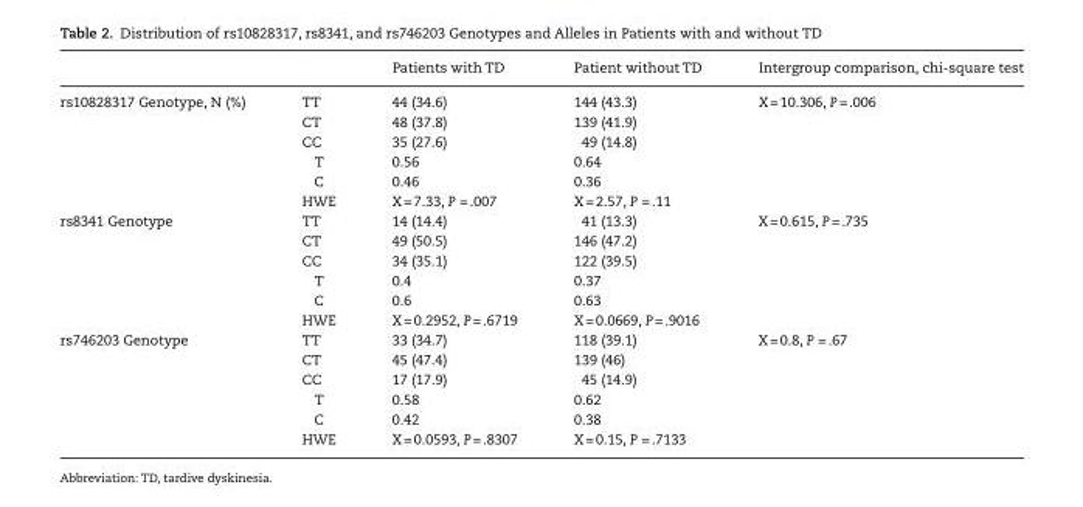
<table><thead><tr><td></td><td></td><td>Patients with TD</td><td>Patient without TD</td><td>Intergroup comparison, chi-square test</td></tr></thead><tbody><tr><td rowspan="6">rs10828317 Genotype, N (%)</td><td>TT</td><td>44 (34.6)</td><td>144 (43.3)</td><td rowspan="6">X = 10.306, P = .006</td></tr><tr><td>CT</td><td>48 (37.8)</td><td>139 (41.9)</td></tr><tr><td>CC</td><td>35 (27.6)</td><td>49 (14.8)</td></tr><tr><td>T</td><td>0.56</td><td>0.64</td></tr><tr><td>C</td><td>0.46</td><td>0.36</td></tr><tr><td>HWE</td><td>X = 7.33, P = .007</td><td>X = 2.57, P = .11</td></tr><tr><td rowspan="6">rs8341 Genotype</td><td>TT</td><td>14 (14.4)</td><td>41 (13.3)</td><td rowspan="6">X = 0.615, P = .735</td></tr><tr><td>CT</td><td>49 (50.5)</td><td>146 (47.2)</td></tr><tr><td>CC</td><td>34 (35.1)</td><td>122 (39.5)</td></tr><tr><td>T</td><td>0.4</td><td>0.37</td></tr><tr><td>C</td><td>0.6</td><td>0.63</td></tr><tr><td>HWE</td><td>X = 0.2952, P = .6719</td><td>X = 0.0669, P = .9016</td></tr><tr><td rowspan="6">rs746203 Genotype</td><td>TT</td><td>33 (34.7)</td><td>118 (39.1)</td><td rowspan="6">X = 0.8, P = .67</td></tr><tr><td>CT</td><td>45 (47.4)</td><td>139 (46)</td></tr><tr><td>CC</td><td>17 (17.9)</td><td>45 (14.9)</td></tr><tr><td>T</td><td>0.58</td><td>0.62</td></tr><tr><td>C</td><td>0.42</td><td>0.38</td></tr><tr><td>HWE</td><td>X = 0.0593, P = .8307</td><td>X = 0.15, P = .7133</td></tr></tbody></table>